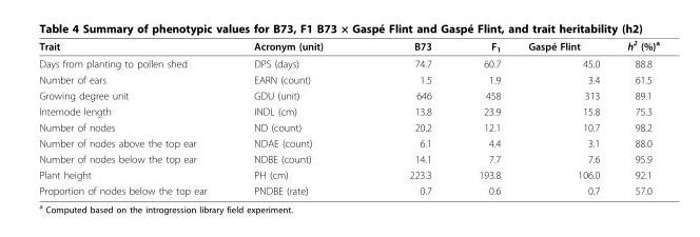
<table><thead><tr><td>Trait</td><td>Acronym (unit)</td><td>B73</td><td>F<sub>1</sub></td><td>Gaspé Flint</td><td>h<sup>2</sup> (%)<sup>a</sup></td></tr></thead><tbody><tr><td>Days from planting to pollen shed</td><td>DPS (days)</td><td>74.7</td><td>60.7</td><td>45.0</td><td>88.8</td></tr><tr><td>Number of ears</td><td>EARN (count)</td><td>1.5</td><td>1.9</td><td>3.4</td><td>61.5</td></tr><tr><td>Growing degree unit</td><td>GDU (unit)</td><td>646</td><td>458</td><td>313</td><td>89.1</td></tr><tr><td>Internode length</td><td>INDL (cm)</td><td>13.8</td><td>23.9</td><td>15.8</td><td>75.3</td></tr><tr><td>Number of nodes</td><td>ND (count)</td><td>20.2</td><td>12.1</td><td>10.7</td><td>98.2</td></tr><tr><td>Number of nodes above the top ear</td><td>NDAE (count)</td><td>6.1</td><td>4.4</td><td>3.1</td><td>88.0</td></tr><tr><td>Number of nodes below the top ear</td><td>NDBE (count)</td><td>14.1</td><td>7.7</td><td>7.6</td><td>95.9</td></tr><tr><td>Plant height</td><td>PH (cm)</td><td>223.3</td><td>193.8</td><td>106.0</td><td>92.1</td></tr><tr><td>Proportion of nodes below the top ear</td><td>PNDBE (rate)</td><td>0.7</td><td>0.6</td><td>0.7</td><td>57.0</td></tr></tbody></table>